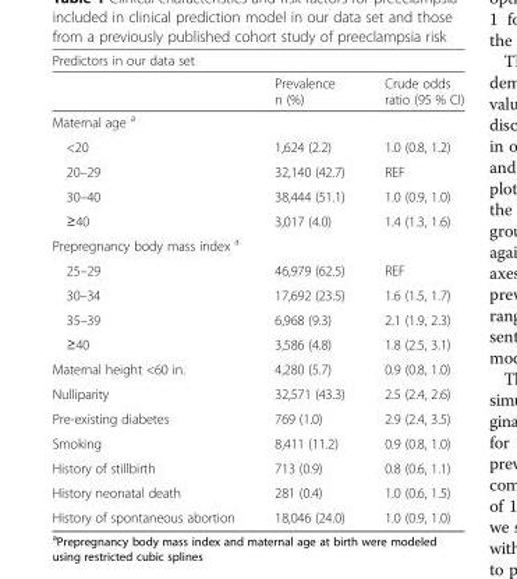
<table><thead><tr><td colspan="3">Predictors in our data set</td></tr><tr><td></td><td>Prevalence n (%)</td><td>Crude odds ratio (95 % CI)</td></tr></thead><tbody><tr><td colspan="3">Maternal age <sup>a</sup></td></tr><tr><td>&lt;20</td><td>1,624 (2.2)</td><td>1.0 (0.8, 1.2)</td></tr><tr><td>20–29</td><td>32,140 (42.7)</td><td>REF</td></tr><tr><td>30–40</td><td>38,444 (51.1)</td><td>1.0 (0.9, 1.0)</td></tr><tr><td>≥40</td><td>3,017 (4.0)</td><td>1.4 (1.3, 1.6)</td></tr><tr><td colspan="3">Prepregnancy body mass index <sup>a</sup></td></tr><tr><td>25–29</td><td>46,979 (62.5)</td><td>REF</td></tr><tr><td>30–34</td><td>17,692 (23.5)</td><td>1.6 (1.5, 1.7)</td></tr><tr><td>35–39</td><td>6,968 (9.3)</td><td>2.1 (1.9, 2.3)</td></tr><tr><td>≥40</td><td>3,586 (4.8)</td><td>1.8 (2.5, 3.1)</td></tr><tr><td>Maternal height &lt;60 in.</td><td>4,280 (5.7)</td><td>0.9 (0.8, 1.0)</td></tr><tr><td>Nulliparity</td><td>32,571 (43.3)</td><td>2.5 (2.4, 2.6)</td></tr><tr><td>Pre-existing diabetes</td><td>769 (1.0)</td><td>2.9 (2.4, 3.5)</td></tr><tr><td>Smoking</td><td>8,411 (11.2)</td><td>0.9 (0.8, 1.0)</td></tr><tr><td>History of stillbirth</td><td>713 (0.9)</td><td>0.8 (0.6, 1.1)</td></tr><tr><td>History neonatal death</td><td>281 (0.4)</td><td>1.0 (0.6, 1.5)</td></tr><tr><td>History of spontaneous abortion</td><td>18,046 (24.0)</td><td>1.0 (0.9, 1.0)</td></tr></tbody></table>